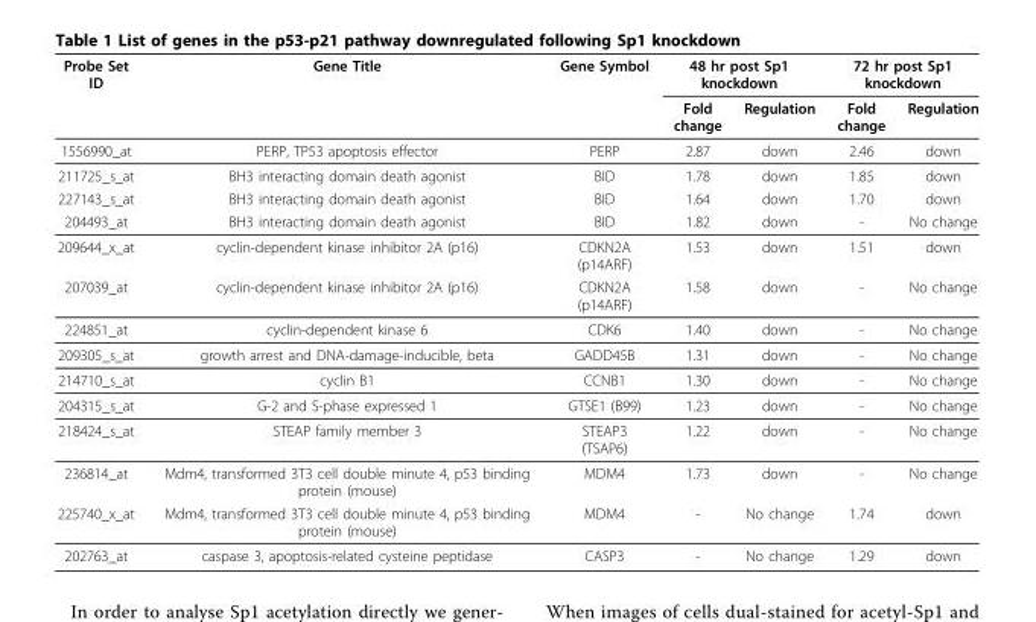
<table><thead><tr><td rowspan="2">Probe Set ID</td><td rowspan="2">Gene Title</td><td rowspan="2">Gene Symbol</td><td colspan="2">48 hr post Sp1 knockdown</td><td colspan="2">72 hr post Sp1 knockdown</td></tr><tr><td>Fold change</td><td>Regulation</td><td>Fold change</td><td>Regulation</td></tr></thead><tbody><tr><td>1556990_at</td><td>PERP, TP53 apoptosis effector</td><td>PERP</td><td>2.87</td><td>down</td><td>2.46</td><td>down</td></tr><tr><td>211725_s_at</td><td>BH3 interacting domain death agonist</td><td>BID</td><td>1.78</td><td>down</td><td>1.85</td><td>down</td></tr><tr><td>227143_s_at</td><td>BH3 interacting domain death agonist</td><td>BID</td><td>1.64</td><td>down</td><td>1.70</td><td>down</td></tr><tr><td>204493_at</td><td>BH3 interacting domain death agonist</td><td>BID</td><td>1.82</td><td>down</td><td>-</td><td>No change</td></tr><tr><td>209644_x_at</td><td>cyclin-dependent kinase inhibitor 2A (p16)</td><td>CDKN2A (p14ARF)</td><td>1.53</td><td>down</td><td>1.51</td><td>down</td></tr><tr><td>207039_at</td><td>cyclin-dependent kinase inhibitor 2A (p16)</td><td>CDKN2A (p14ARF)</td><td>1.58</td><td>down</td><td>-</td><td>No change</td></tr><tr><td>224851_at</td><td>cyclin-dependent kinase 6</td><td>CDK6</td><td>1.40</td><td>down</td><td>-</td><td>No change</td></tr><tr><td>209305_s_at</td><td>growth arrest and DNA-damage-inducible, beta</td><td>GADD45B</td><td>1.31</td><td>down</td><td>-</td><td>No change</td></tr><tr><td>214710_s_at</td><td>cyclin B1</td><td>CCNB1</td><td>1.30</td><td>down</td><td>-</td><td>No change</td></tr><tr><td>204315_s_at</td><td>G-2 and S-phase expressed 1</td><td>GTSE1 (B99)</td><td>1.23</td><td>down</td><td>-</td><td>No change</td></tr><tr><td>218424_s_at</td><td>STEAP family member 3</td><td>STEAP3 (TSAP6)</td><td>1.22</td><td>down</td><td>-</td><td>No change</td></tr><tr><td>236814_at</td><td>Mdm4, transformed 3T3 cell double minute 4, p53 binding protein (mouse)</td><td>MDM4</td><td>1.73</td><td>down</td><td>-</td><td>No change</td></tr><tr><td>225740_x_at</td><td>Mdm4, transformed 3T3 cell double minute 4, p53 binding protein (mouse)</td><td>MDM4</td><td>-</td><td>No change</td><td>1.74</td><td>down</td></tr><tr><td>202763_at</td><td>caspase 3, apoptosis-related cysteine peptidase</td><td>CASP3</td><td>-</td><td>No change</td><td>1.29</td><td>down</td></tr></tbody></table>